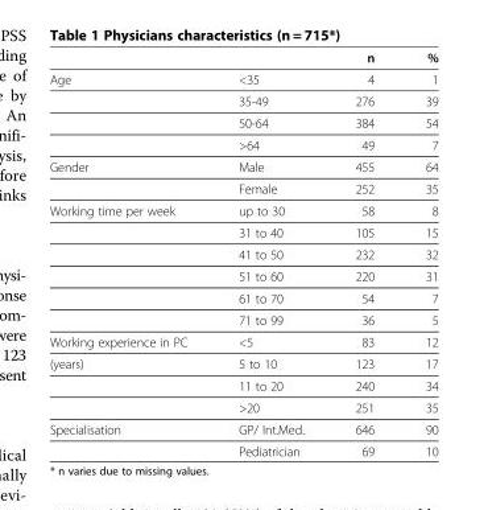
<table><thead><tr><td></td><td></td><td>n</td><td>%</td></tr></thead><tbody><tr><td rowspan="4">Age</td><td>&lt;35</td><td>4</td><td>1</td></tr><tr><td>35-49</td><td>276</td><td>39</td></tr><tr><td>50-64</td><td>384</td><td>54</td></tr><tr><td>&gt;64</td><td>49</td><td>7</td></tr><tr><td rowspan="2">Gender</td><td>Male</td><td>455</td><td>64</td></tr><tr><td>Female</td><td>252</td><td>35</td></tr><tr><td rowspan="6">Working time per week</td><td>up to 30</td><td>58</td><td>8</td></tr><tr><td>31 to 40</td><td>105</td><td>15</td></tr><tr><td>41 to 50</td><td>232</td><td>32</td></tr><tr><td>51 to 60</td><td>220</td><td>31</td></tr><tr><td>61 to 70</td><td>54</td><td>7</td></tr><tr><td>71 to 99</td><td>36</td><td>5</td></tr><tr><td>Working experience in PC</td><td>&lt;5</td><td>83</td><td>12</td></tr><tr><td rowspan="3">(years)</td><td>5 to 10</td><td>123</td><td>17</td></tr><tr><td>11 to 20</td><td>240</td><td>34</td></tr><tr><td>&gt;20</td><td>251</td><td>35</td></tr><tr><td rowspan="2">Specialisation</td><td>GP/ Int.Med.</td><td>646</td><td>90</td></tr><tr><td>Pediatrician</td><td>69</td><td>10</td></tr></tbody></table>